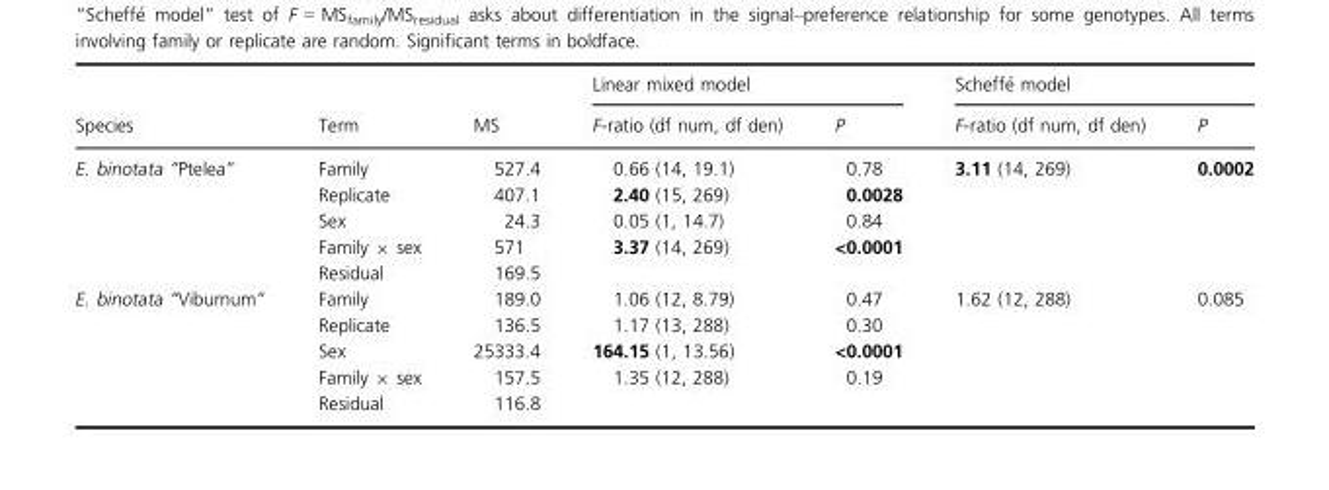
<table><thead><tr><td rowspan="2">Species</td><td rowspan="2">Term</td><td rowspan="2">MS</td><td colspan="2">Linear mixed model</td><td colspan="2">Scheff�e model</td></tr><tr><td>F-ratio (df num, df den)</td><td>P</td><td>F-ratio (df num, df den)</td><td>P</td></tr></thead><tbody><tr><td rowspan="5">E. binotata “Ptelea”</td><td>Family</td><td>527.4</td><td>0.66 (14, 19.1)</td><td>0.78</td><td>3.11 (14, 269)</td><td>0.0002</td></tr><tr><td>Replicate</td><td>407.1</td><td>2.40 (15, 269)</td><td>0.0028</td><td></td><td></td></tr><tr><td>Sex</td><td>24.3</td><td>0.05 (1, 14.7)</td><td>0.84</td><td></td><td></td></tr><tr><td>Family × sex</td><td>571</td><td>3.37 (14, 269)</td><td>&lt;0.0001</td><td></td><td></td></tr><tr><td>Residual</td><td>169.5</td><td></td><td></td><td></td><td></td></tr><tr><td rowspan="5">E. binotata “Viburnum”</td><td>Family</td><td>189.0</td><td>1.06 (12, 8.79)</td><td>0.47</td><td>1.62 (12, 288)</td><td>0.085</td></tr><tr><td>Replicate</td><td>136.5</td><td>1.17 (13, 288)</td><td>0.30</td><td></td><td></td></tr><tr><td>Sex</td><td>25333.4</td><td>164.15 (1, 13.56)</td><td>&lt;0.0001</td><td></td><td></td></tr><tr><td>Family × sex</td><td>157.5</td><td>1.35 (12, 288)</td><td>0.19</td><td></td><td></td></tr><tr><td>Residual</td><td>116.8</td><td></td><td></td><td></td><td></td></tr></tbody></table>